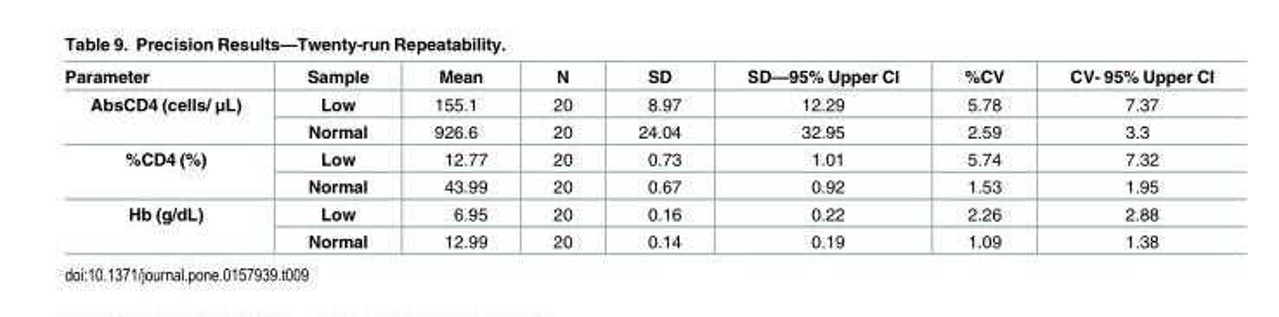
<table><thead><tr><td>Parameter</td><td>Sample</td><td>Mean</td><td>N</td><td>SD</td><td>SD—95% Upper CI</td><td>%CV</td><td>CV- 95% Upper CI</td></tr></thead><tbody><tr><td rowspan="2">AbsCD4 (cells/ μL)</td><td>Low</td><td>155.1</td><td>20</td><td>8.97</td><td>12.29</td><td>5.78</td><td>7.37</td></tr><tr><td>Normal</td><td>926.6</td><td>20</td><td>24.04</td><td>32.95</td><td>2.59</td><td>3.3</td></tr><tr><td rowspan="2">%CD4 (%)</td><td>Low</td><td>12.77</td><td>20</td><td>0.73</td><td>1.01</td><td>5.74</td><td>7.32</td></tr><tr><td>Normal</td><td>43.99</td><td>20</td><td>0.67</td><td>0.92</td><td>1.53</td><td>1.95</td></tr><tr><td rowspan="2">Hb (g/dL)</td><td>Low</td><td>6.95</td><td>20</td><td>0.16</td><td>0.22</td><td>2.26</td><td>2.88</td></tr><tr><td>Normal</td><td>12.99</td><td>20</td><td>0.14</td><td>0.19</td><td>1.09</td><td>1.38</td></tr></tbody></table>